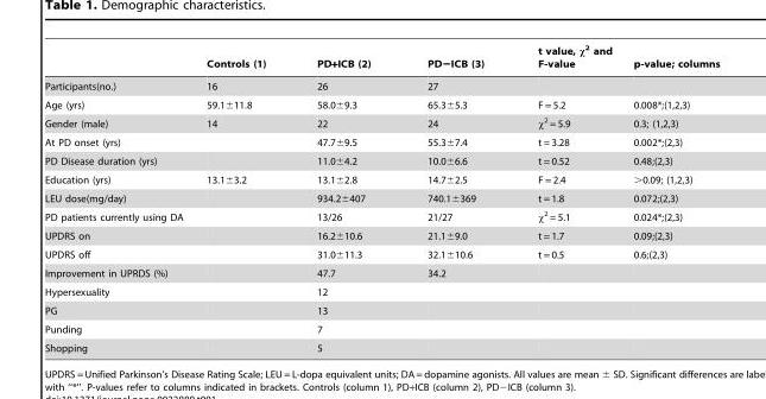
<table><thead><tr><td></td><td>Controls (1)</td><td>PD+ICB (2)</td><td>PD−ICB (3)</td><td>t value, χ<sup>2</sup> and F-value</td><td>p-value; columns</td></tr></thead><tbody><tr><td>Participants(no.)</td><td>16</td><td>26</td><td>27</td><td></td><td></td></tr><tr><td>Age (yrs)</td><td>59.1±11.8</td><td>58.0±9.3</td><td>65.3±5.3</td><td>F = 5.2</td><td>0.008*;(1,2,3)</td></tr><tr><td>Gender (male)</td><td>14</td><td>22</td><td>24</td><td>κ<sup>2</sup> = 5.9</td><td>0.3; (1,2,3)</td></tr><tr><td>At PD onset (yrs)</td><td></td><td>47.7±9.5</td><td>55.3±7.4</td><td>t = 3.28</td><td>0.002*;(2,3)</td></tr><tr><td>PD Disease duration (yrs)</td><td></td><td>11.0±4.2</td><td>10.0±6.6</td><td>t = 0.52</td><td>0.48;(2,3)</td></tr><tr><td>Education (yrs)</td><td>13.1±3.2</td><td>13.1±2.8</td><td>14.7±2.5</td><td>F = 2.4</td><td>&gt;0.09; (1,2,3)</td></tr><tr><td>LEU dose(mg/day)</td><td></td><td>934.2±407</td><td>740.1±369</td><td>t = 1.8</td><td>0.072;(2,3)</td></tr><tr><td>PD patients currently using DA</td><td></td><td>13/26</td><td>21/27</td><td>κ<sup>2</sup> = 5.1</td><td>0.024*;(2,3)</td></tr><tr><td>UPDRS on</td><td></td><td>16.2±10.6</td><td>21.1±9.0</td><td>t = 1.7</td><td>0.09;(2,3)</td></tr><tr><td>UPDRS off</td><td></td><td>31.0±11.3</td><td>32.1±10.6</td><td>t = 0.5</td><td>0.6;(2,3)</td></tr><tr><td>Improvement in UPRDS (%)</td><td></td><td>47.7</td><td>34.2</td><td></td><td></td></tr><tr><td>Hypersexuality</td><td></td><td>12</td><td></td><td></td><td></td></tr><tr><td>PG</td><td></td><td>13</td><td></td><td></td><td></td></tr><tr><td>Punding</td><td></td><td>7</td><td></td><td></td><td></td></tr><tr><td>Shopping</td><td></td><td>5</td><td></td><td></td><td></td></tr></tbody></table>